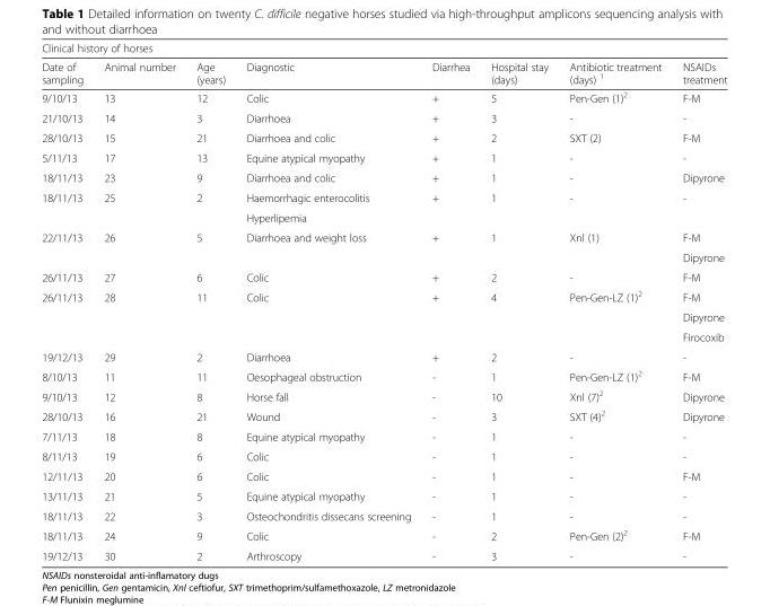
<table><thead><tr><td colspan="8">Clinical history of horses</td></tr><tr><td>Date of sampling</td><td>Animal number</td><td>Age (years)</td><td>Diagnostic</td><td>Diarrhea</td><td>Hospital stay (days)</td><td>Antibiotic treatment (days) <sup>1</sup></td><td>NSAIDs treatment</td></tr></thead><tbody><tr><td>9/10/13</td><td>13</td><td>12</td><td>Colic</td><td>+</td><td>5</td><td>Pen-Gen (1)<sup>2</sup></td><td>F-M</td></tr><tr><td>21/10/13</td><td>14</td><td>3</td><td>Diarrhoea</td><td>+</td><td>3</td><td>-</td><td>-</td></tr><tr><td>28/10/13</td><td>15</td><td>21</td><td>Diarrhoea and colic</td><td>+</td><td>2</td><td>SXT (2)</td><td>F-M</td></tr><tr><td>5/11/13</td><td>17</td><td>13</td><td>Equine atypical myopathy</td><td>+</td><td>1</td><td>-</td><td>-</td></tr><tr><td>18/11/13</td><td>23</td><td>9</td><td>Diarrhoea and colic</td><td>+</td><td>1</td><td>-</td><td>Dipyrone</td></tr><tr><td rowspan="2">18/11/13</td><td rowspan="2">25</td><td rowspan="2">2</td><td>Haemorrhagic enterocolitis</td><td rowspan="2">+</td><td rowspan="2">1</td><td rowspan="2">-</td><td rowspan="2">-</td></tr><tr><td>Hyperlipemia</td></tr><tr><td rowspan="2">22/11/13</td><td rowspan="2">26</td><td rowspan="2">5</td><td rowspan="2">Diarrhoea and weight loss</td><td rowspan="2">+</td><td rowspan="2">1</td><td rowspan="2">Xnl (1)</td><td>F-M</td></tr><tr><td>Dipyrone</td></tr><tr><td>26/11/13</td><td>27</td><td>6</td><td>Colic</td><td>+</td><td>2</td><td>-</td><td>F-M</td></tr><tr><td rowspan="3">26/11/13</td><td rowspan="3">28</td><td rowspan="3">11</td><td rowspan="3">Colic</td><td rowspan="3">+</td><td rowspan="3">4</td><td rowspan="3">Pen-Gen-LZ (1)<sup>2</sup></td><td>F-M</td></tr><tr><td>Dipyrone</td></tr><tr><td>Firocoxib</td></tr><tr><td>19/12/13</td><td>29</td><td>2</td><td>Diarrhoea</td><td>+</td><td>2</td><td>-</td><td>-</td></tr><tr><td>8/10/13</td><td>11</td><td>11</td><td>Oesophageal obstruction</td><td>-</td><td>1</td><td>Pen-Gen-LZ (1)<sup>2</sup></td><td>F-M</td></tr><tr><td>9/10/13</td><td>12</td><td>8</td><td>Horse fall</td><td>-</td><td>10</td><td>Xnl (7)<sup>2</sup></td><td>Dipyrone</td></tr><tr><td>28/10/13</td><td>16</td><td>21</td><td>Wound</td><td>-</td><td>3</td><td>SXT (4)<sup>2</sup></td><td>Dipyrone</td></tr><tr><td>7/11/13</td><td>18</td><td>8</td><td>Equine atypical myopathy</td><td>-</td><td>1</td><td>-</td><td>-</td></tr><tr><td>8/11/13</td><td>19</td><td>6</td><td>Colic</td><td>-</td><td>1</td><td>-</td><td>-</td></tr><tr><td>12/11/13</td><td>20</td><td>6</td><td>Colic</td><td>-</td><td>1</td><td>-</td><td>F-M</td></tr><tr><td>13/11/13</td><td>21</td><td>5</td><td>Equine atypical myopathy</td><td>-</td><td>1</td><td>-</td><td>-</td></tr><tr><td>18/11/13</td><td>22</td><td>3</td><td>Osteochondritis dissecans screening</td><td>-</td><td>1</td><td>-</td><td>-</td></tr><tr><td>18/11/13</td><td>24</td><td>9</td><td>Colic</td><td>-</td><td>2</td><td>Pen-Gen (2)<sup>2</sup></td><td>F-M</td></tr><tr><td>19/12/13</td><td>30</td><td>2</td><td>Arthroscopy</td><td>-</td><td>3</td><td>-</td><td>-</td></tr></tbody></table>